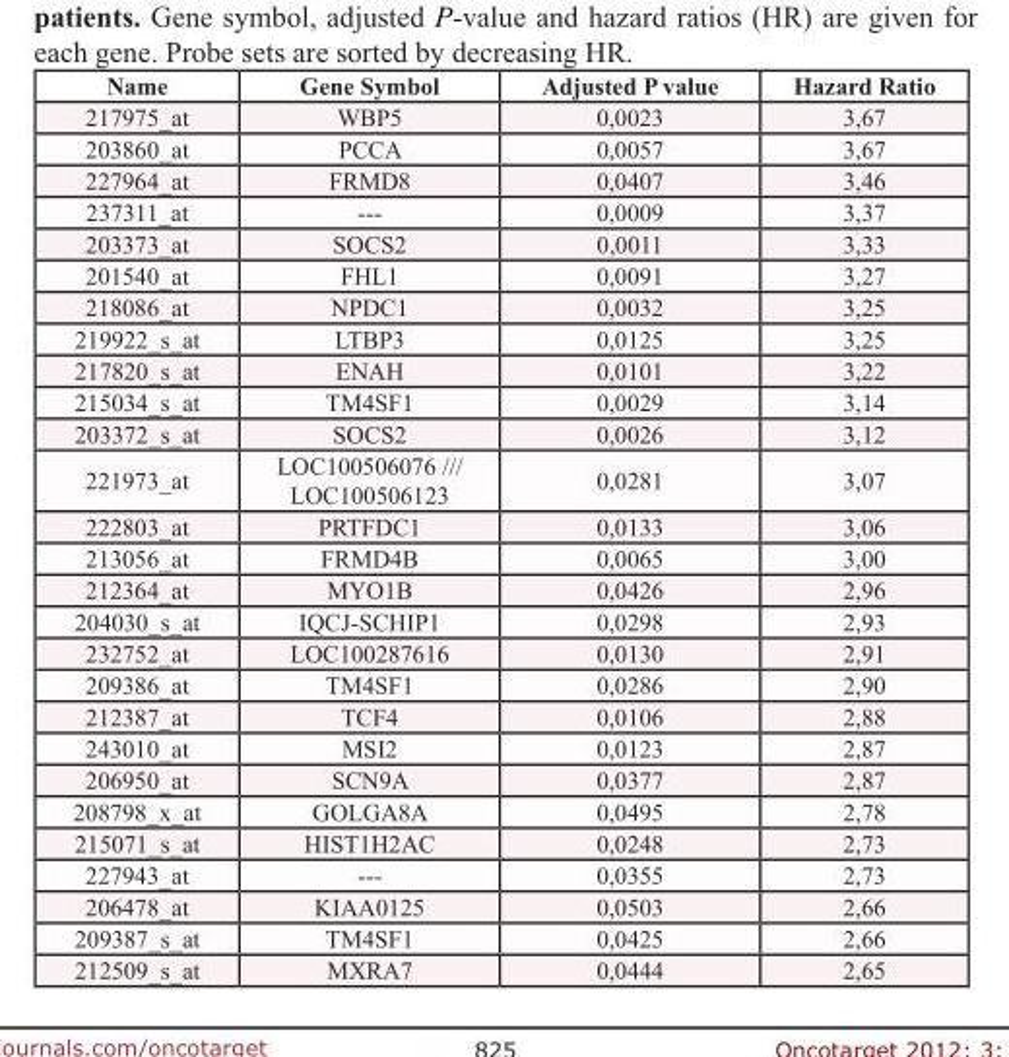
<table><thead><tr><td>Name</td><td>Gene Symbol</td><td>Adjusted P value</td><td>Hazard Ratio</td></tr></thead><tbody><tr><td>217975_at</td><td>WBP5</td><td>0,0023</td><td>3,67</td></tr><tr><td>203860_at</td><td>PCCA</td><td>0,0057</td><td>3,67</td></tr><tr><td>227964_at</td><td>FRMD8</td><td>0,0407</td><td>3,46</td></tr><tr><td>237311_at</td><td>---</td><td>0,0009</td><td>3,37</td></tr><tr><td>203373_at</td><td>SOCS2</td><td>0,0011</td><td>3,33</td></tr><tr><td>201540_at</td><td>FHL1</td><td>0,0091</td><td>3,27</td></tr><tr><td>218086_at</td><td>NPDC1</td><td>0,0032</td><td>3,25</td></tr><tr><td>219922_s_at</td><td>LTBP3</td><td>0,0125</td><td>3,25</td></tr><tr><td>217820_s_at</td><td>ENAH</td><td>0,0101</td><td>3,22</td></tr><tr><td>215034_s_at</td><td>TM4SF1</td><td>0,0029</td><td>3,14</td></tr><tr><td>203372_s_at</td><td>SOCS2</td><td>0,0026</td><td>3,12</td></tr><tr><td>221973_at</td><td>LOC100506076 /// LOC100506123</td><td>0,0281</td><td>3,07</td></tr><tr><td>222803_at</td><td>PRTFDC1</td><td>0,0133</td><td>3,06</td></tr><tr><td>213056_at</td><td>FRMD4B</td><td>0,0065</td><td>3,00</td></tr><tr><td>212364_at</td><td>MYO1B</td><td>0,0426</td><td>2,96</td></tr><tr><td>204030_s_at</td><td>IQCJ-SCHIP1</td><td>0,0298</td><td>2,93</td></tr><tr><td>232752_at</td><td>LOC100287616</td><td>0,0130</td><td>2,91</td></tr><tr><td>209386_at</td><td>TM4SF1</td><td>0,0286</td><td>2,90</td></tr><tr><td>212387_at</td><td>TCF4</td><td>0,0106</td><td>2,88</td></tr><tr><td>243010_at</td><td>MSI2</td><td>0,0123</td><td>2,87</td></tr><tr><td>206950_at</td><td>SCN9A</td><td>0,0377</td><td>2,87</td></tr><tr><td>208798_x_at</td><td>GOLGA8A</td><td>0,0495</td><td>2,78</td></tr><tr><td>215071_s_at</td><td>HIST1H2AC</td><td>0,0248</td><td>2,73</td></tr><tr><td>227943_at</td><td>---</td><td>0,0355</td><td>2,73</td></tr><tr><td>206478_at</td><td>KIAA0125</td><td>0,0503</td><td>2,66</td></tr><tr><td>209387_s_at</td><td>TM4SF1</td><td>0,0425</td><td>2,66</td></tr><tr><td>212509_s_at</td><td>MXRA7</td><td>0,0444</td><td>2,65</td></tr></tbody></table>